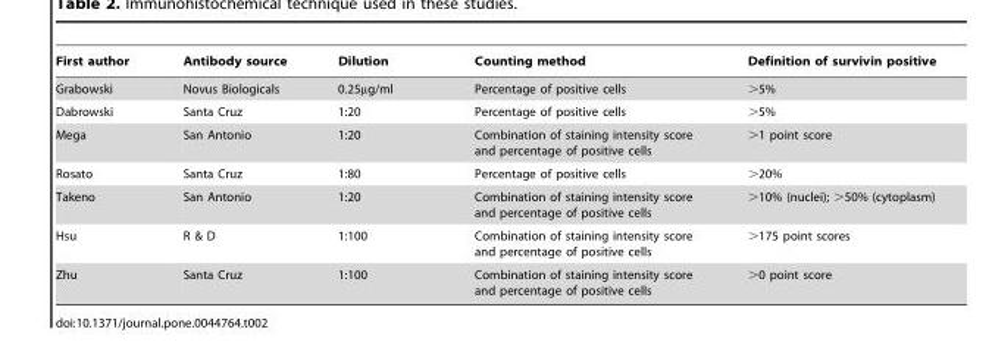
<table><thead><tr><td>First author</td><td>Antibody source</td><td>Dilution</td><td>Counting method</td><td>Definition of survivin positive</td></tr></thead><tbody><tr><td>Grabowski</td><td>Novus Biologicals</td><td>0.25µg/ml</td><td>Percentage of positive cells</td><td>&gt;5%</td></tr><tr><td>Dabrowski</td><td>Santa Cruz</td><td>1:20</td><td>Percentage of positive cells</td><td>&gt;5%</td></tr><tr><td>Mega</td><td>San Antonio</td><td>1:20</td><td>Combination of staining intensity score and percentage of positive cells</td><td>&gt;1 point score</td></tr><tr><td>Rosato</td><td>Santa Cruz</td><td>1:80</td><td>Percentage of positive cells</td><td>&gt;20%</td></tr><tr><td>Takeno</td><td>San Antonio</td><td>1:20</td><td>Combination of staining intensity score and percentage of positive cells</td><td>&gt;10% (nuclei); &gt;50% (cytoplasm)</td></tr><tr><td>Hsu</td><td>R &amp; D</td><td>1:100</td><td>Combination of staining intensity score and percentage of positive cells</td><td>&gt;175 point scores</td></tr><tr><td>Zhu</td><td>Santa Cruz</td><td>1:100</td><td>Combination of staining intensity score and percentage of positive cells</td><td>&gt;0 point score</td></tr></tbody></table>